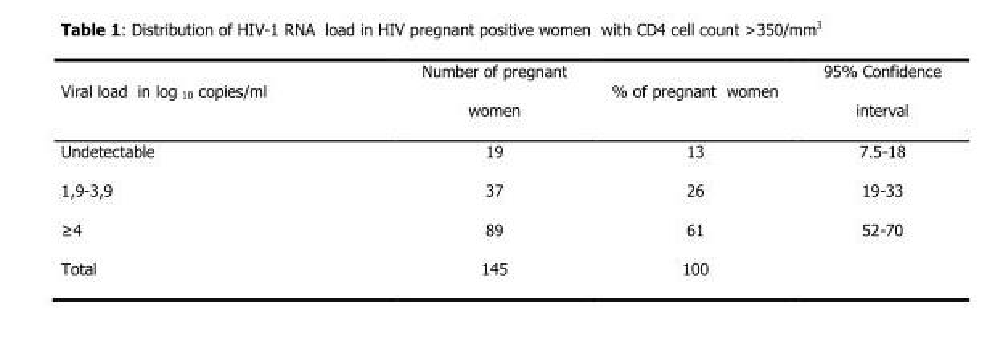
<table><thead><tr><td>Viral load in log <sub>10</sub> copies/ml</td><td>Number of pregnant women</td><td>% of pregnant women</td><td>95% Confidence interval</td></tr></thead><tbody><tr><td>Undetectable</td><td>19</td><td>13</td><td>7.5-18</td></tr><tr><td>1,9-3,9</td><td>37</td><td>26</td><td>19-33</td></tr><tr><td>≥4</td><td>89</td><td>61</td><td>52-70</td></tr><tr><td>Total</td><td>145</td><td>100</td><td></td></tr></tbody></table>